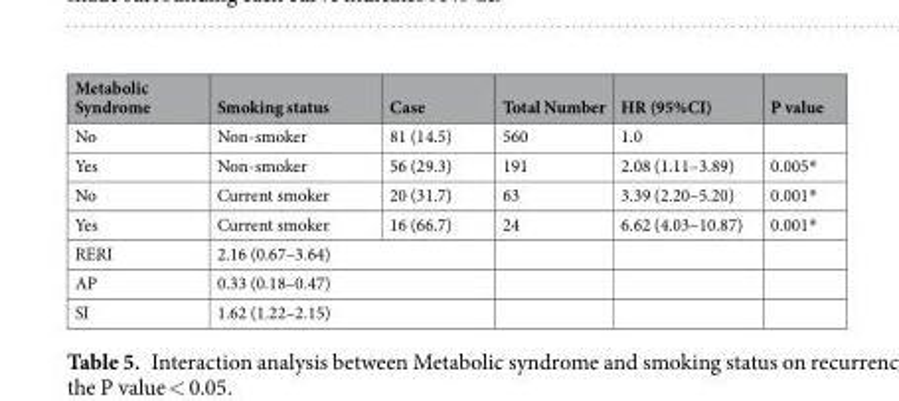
<table><thead><tr><td>Metabolic Syndrome</td><td>Smoking status</td><td>Case</td><td>Total Number</td><td>HR (95%CI)</td><td>P value</td></tr></thead><tbody><tr><td>No</td><td>Non-smoker</td><td>81 (14.5)</td><td>560</td><td>1.0</td><td></td></tr><tr><td>Yes</td><td>Non-smoker</td><td>56 (29.3)</td><td>191</td><td>2.08 (1.11–3.89)</td><td>0.005*</td></tr><tr><td>No</td><td>Current smoker</td><td>20 (31.7)</td><td>63</td><td>3.39 (2.20–5.20)</td><td>0.001*</td></tr><tr><td>Yes</td><td>Current smoker</td><td>16 (66.7)</td><td>24</td><td>6.62 (4.03–10.87)</td><td>0.001*</td></tr><tr><td>RERI</td><td colspan="2">2.16 (0.67–3.64)</td><td></td><td></td><td></td></tr><tr><td>AP</td><td colspan="2">0.33 (0.18–0.47)</td><td></td><td></td><td></td></tr><tr><td>SI</td><td colspan="2">1.62 (1.22–2.15)</td><td></td><td></td><td></td></tr></tbody></table>